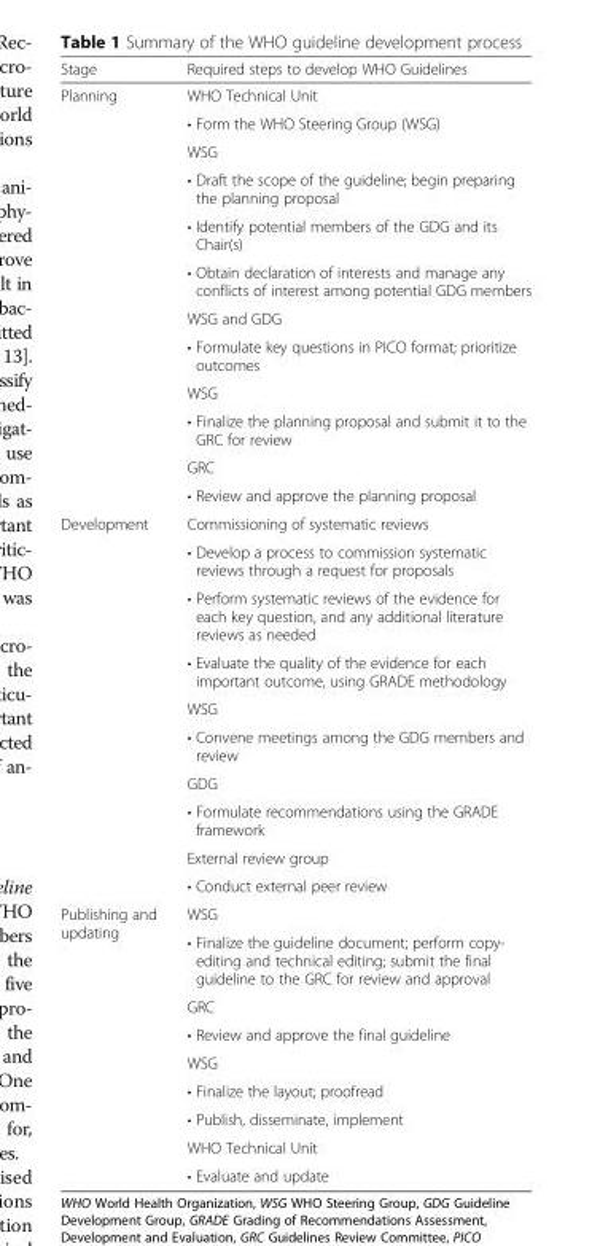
<table><thead><tr><td>Stage</td><td>Required steps to develop WHO Guidelines</td></tr></thead><tbody><tr><td rowspan="12">Planning</td><td>WHO Technical Unit</td></tr><tr><td>• Form the WHO Steering Group (WSG)</td></tr><tr><td>WSG</td></tr><tr><td>• Draft the scope of the guideline; begin preparing the planning proposal</td></tr><tr><td>• Identify potential members of the GDG and its Chair(s)</td></tr><tr><td>• Obtain declaration of interests and manage any conflicts of interest among potential GDG members</td></tr><tr><td>WSG and GDG</td></tr><tr><td>• Formulate key questions in PICO format; prioritize outcomes</td></tr><tr><td>WSG</td></tr><tr><td>• Finalize the planning proposal and submit it to the GRC for review</td></tr><tr><td>GRC</td></tr><tr><td>• Review and approve the planning proposal</td></tr><tr><td rowspan="10">Development</td><td>Commissioning of systematic reviews</td></tr><tr><td>• Develop a process to commission systematic reviews through a request for proposals</td></tr><tr><td>• Perform systematic reviews of the evidence for each key question, and any additional literature reviews as needed</td></tr><tr><td>• Evaluate the quality of the evidence for each important outcome, using GRADE methodology</td></tr><tr><td>WSG</td></tr><tr><td>• Convene meetings among the GDG members and review</td></tr><tr><td>GDG</td></tr><tr><td>• Formulate recommendations using the GRADE framework</td></tr><tr><td>External review group</td></tr><tr><td>• Conduct external peer review</td></tr><tr><td rowspan="9">Publishing and updating</td><td>WSG</td></tr><tr><td>• Finalize the guideline document; perform copy- editing and technical editing; submit the final guideline to the GRC for review and approval</td></tr><tr><td>GRC</td></tr><tr><td>• Review and approve the final guideline</td></tr><tr><td>WSG</td></tr><tr><td>• Finalize the layout; proofread</td></tr><tr><td>• Publish, disseminate, implement</td></tr><tr><td>WHO Technical Unit</td></tr><tr><td>• Evaluate and update</td></tr></tbody></table>